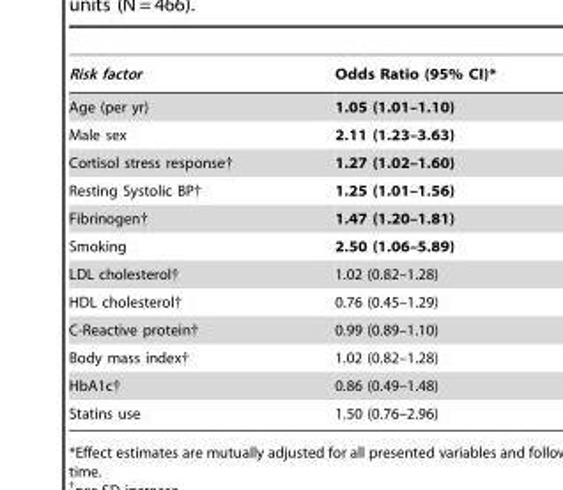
<table><thead><tr><td>Risk factor</td><td>Odds Ratio (95% CI)*</td></tr></thead><tbody><tr><td>Age (per yr)</td><td>1.05 (1.01–1.10)</td></tr><tr><td>Male sex</td><td>2.11 (1.23–3.63)</td></tr><tr><td>Cortisol stress response†</td><td>1.27 (1.02–1.60)</td></tr><tr><td>Resting Systolic BP†</td><td>1.25 (1.01–1.56)</td></tr><tr><td>Fibrinogen†</td><td>1.47 (1.20–1.81)</td></tr><tr><td>Smoking</td><td>2.50 (1.06–5.89)</td></tr><tr><td>LDL cholesterol†</td><td>1.02 (0.82–1.28)</td></tr><tr><td>HDL cholesterol†</td><td>0.76 (0.45–1.29)</td></tr><tr><td>C-Reactive protein†</td><td>0.99 (0.89–1.10)</td></tr><tr><td>Body mass index†</td><td>1.02 (0.82–1.28)</td></tr><tr><td>HbA1c†</td><td>0.86 (0.49–1.48)</td></tr><tr><td>Statins use</td><td>1.50 (0.76–2.96)</td></tr></tbody></table>